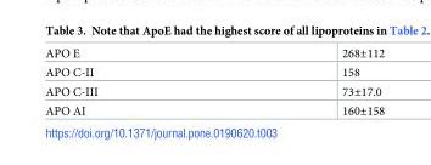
<table><tbody><tr><td>APO E</td><td>268±112</td></tr><tr><td>APO C-II</td><td>158</td></tr><tr><td>APO C-III</td><td>73±17.0</td></tr><tr><td>APO AI</td><td>160±158</td></tr></tbody></table>